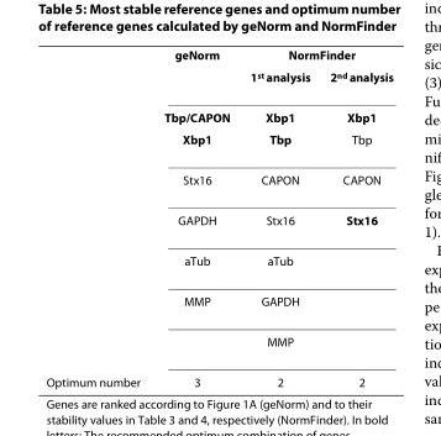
<table><thead><tr><td rowspan="2"></td><td rowspan="2">geNorm</td><td colspan="2">NormFinder</td></tr><tr><td>1<sup>st</sup> analysis</td><td>2<sup>nd</sup> analysis</td></tr></thead><tbody><tr><td></td><td>Tbp/CAPON</td><td>Xbp1</td><td>Xbp1</td></tr><tr><td></td><td>Xbp1</td><td>Tbp</td><td>Tbp</td></tr><tr><td></td><td>Stx16</td><td>CAPON</td><td>CAPON</td></tr><tr><td></td><td>GAPDH</td><td>Stx16</td><td>Stx16</td></tr><tr><td></td><td>aTub</td><td>aTub</td><td></td></tr><tr><td></td><td>MMP</td><td>GAPDH</td><td></td></tr><tr><td></td><td></td><td>MMP</td><td></td></tr><tr><td>Optimum number</td><td>3</td><td>2</td><td>2</td></tr></tbody></table>